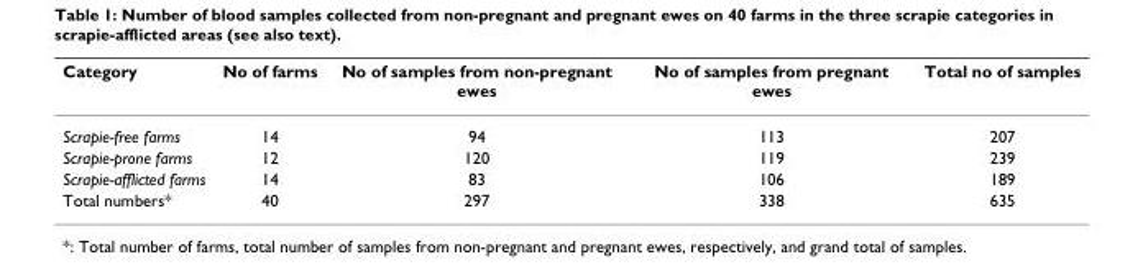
<table><thead><tr><td>Category</td><td>No of farms</td><td>No of samples from non-pregnant ewes</td><td>No of samples from pregnant ewes</td><td>Total no of samples</td></tr></thead><tbody><tr><td>Scrapie-free farms</td><td>14</td><td>94</td><td>113</td><td>207</td></tr><tr><td>Scrapie-prone farms</td><td>12</td><td>120</td><td>119</td><td>239</td></tr><tr><td>Scrapie-afflicted farms</td><td>14</td><td>83</td><td>106</td><td>189</td></tr><tr><td>Total numbers*</td><td>40</td><td>297</td><td>338</td><td>635</td></tr></tbody></table>